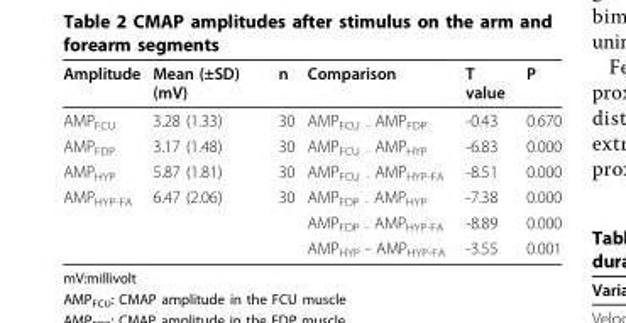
<table><thead><tr><td>Amplitude</td><td>Mean (±SD) (mV)</td><td>n</td><td>Comparison</td><td>T value</td><td>P</td></tr></thead><tbody><tr><td>AMP<sub>FCU</sub></td><td>3.28 (1.33)</td><td>30</td><td>AMP<sub>FCU -</sub> AMP<sub>FDP</sub></td><td>-0.43</td><td>0.670</td></tr><tr><td>AMP<sub>FDP</sub></td><td>3.17 (1.48)</td><td>30</td><td>AMP<sub>FCU -</sub> AMP<sub>HYP</sub></td><td>-6.83</td><td>0.000</td></tr><tr><td>AMP<sub>HYP</sub></td><td>5.87 (1.81)</td><td>30</td><td>AMP<sub>FCU -</sub> AMP<sub>HYP-FA</sub></td><td>-8.51</td><td>0.000</td></tr><tr><td rowspan="3">AMP<sub>HYP-FA</sub></td><td>6.47 (2.06)</td><td>30</td><td>AMP<sub>FDP -</sub> AMP<sub>HYP</sub></td><td>-7.38</td><td>0.000</td></tr><tr><td></td><td></td><td>AMP<sub>FDP -</sub> AMP<sub>HYP-FA</sub></td><td>-8.89</td><td>0.000</td></tr><tr><td></td><td></td><td>AMP<sub>HYP</sub> - AMP<sub>HYP-FA</sub></td><td>-3.55</td><td>0.001</td></tr></tbody></table>